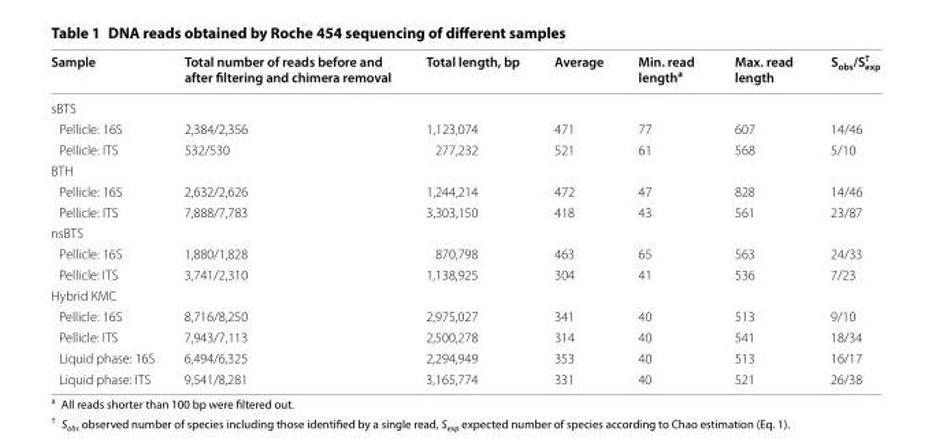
<table><thead><tr><td>Sample</td><td>Total number of reads before and after filtering and chimera removal</td><td>Total length, bp</td><td>Average</td><td>Min. read length<sup>a</sup></td><td>Max. read length</td><td>Sobs/S† exp</td></tr></thead><tbody><tr><td colspan="7">sBTS</td></tr><tr><td>Pellicle: 16S</td><td>2,384/2,356</td><td>1,123,074</td><td>471</td><td>77</td><td>607</td><td>14/46</td></tr><tr><td>Pellicle: ITS</td><td>532/530</td><td>277,232</td><td>521</td><td>61</td><td>568</td><td>5/10</td></tr><tr><td colspan="7">BTH</td></tr><tr><td>Pellicle: 16S</td><td>2,632/2,626</td><td>1,244,214</td><td>472</td><td>47</td><td>828</td><td>14/46</td></tr><tr><td>Pellicle: ITS</td><td>7,888/7,783</td><td>3,303,150</td><td>418</td><td>43</td><td>561</td><td>23/87</td></tr><tr><td colspan="7">nsBTS</td></tr><tr><td>Pellicle: 16S</td><td>1,880/1,828</td><td>870,798</td><td>463</td><td>65</td><td>563</td><td>24/33</td></tr><tr><td>Pellicle: ITS</td><td>3,741/2,310</td><td>1,138,925</td><td>304</td><td>41</td><td>536</td><td>7/23</td></tr><tr><td colspan="7">Hybrid KMC</td></tr><tr><td>Pellicle: 16S</td><td>8,716/8,250</td><td>2,975,027</td><td>341</td><td>40</td><td>513</td><td>9/10</td></tr><tr><td>Pellicle: ITS</td><td>7,943/7,113</td><td>2,500,278</td><td>314</td><td>40</td><td>541</td><td>18/34</td></tr><tr><td>Liquid phase: 16S</td><td>6,494/6,325</td><td>2,294,949</td><td>353</td><td>40</td><td>513</td><td>16/17</td></tr><tr><td>Liquid phase: ITS</td><td>9,541/8,281</td><td>3,165,774</td><td>331</td><td>40</td><td>521</td><td>26/38</td></tr></tbody></table>